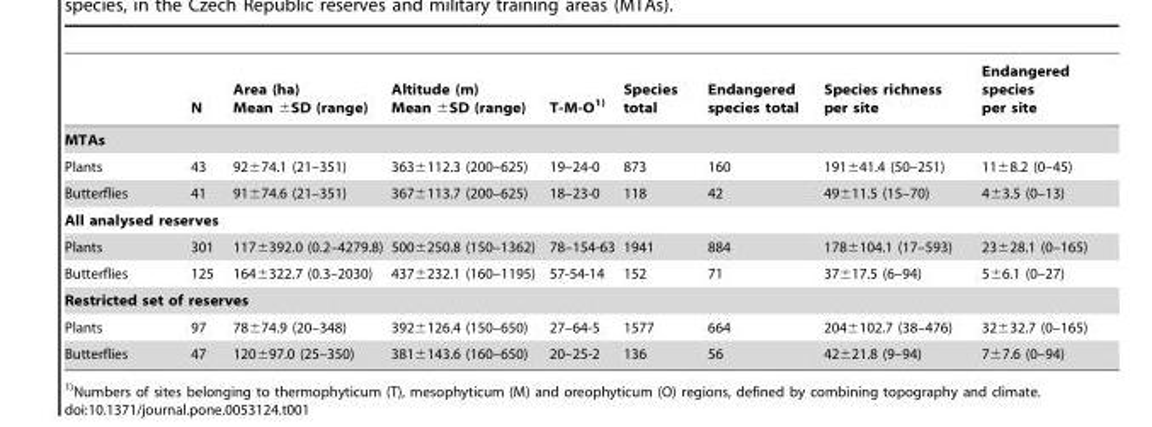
<table><thead><tr><td></td><td>N</td><td>Area (ha) Mean ±SD (range)</td><td>Altitude (m) Mean ±SD (range)</td><td>T-M-O1)</td><td>Species total</td><td>Endangered species total</td><td>Species richness per site</td><td>Endangered species per site</td></tr></thead><tbody><tr><td colspan="9">MTAs</td></tr><tr><td>Plants</td><td>43</td><td>92±74.1 (21–351)</td><td>363±112.3 (200–625)</td><td>19–24-0</td><td>873</td><td>160</td><td>191±41.4 (50–251)</td><td>11±8.2 (0–45)</td></tr><tr><td>Butterflies</td><td>41</td><td>91±74.6 (21–351)</td><td>367±113.7 (200–625)</td><td>18–23-0</td><td>118</td><td>42</td><td>49±11.5 (15–70)</td><td>4±3.5 (0–13)</td></tr><tr><td colspan="9">All analysed reserves</td></tr><tr><td>Plants</td><td>301</td><td>117±392.0 (0.2–4279.8)</td><td>500±250.8 (150–1362)</td><td>78–154-63</td><td>1941</td><td>884</td><td>178±104.1 (17–593)</td><td>23±28.1 (0–165)</td></tr><tr><td>Butterflies</td><td>125</td><td>164±322.7 (0.3–2030)</td><td>437±232.1 (160–1195)</td><td>57-54-14</td><td>152</td><td>71</td><td>37±17.5 (6–94)</td><td>5±6.1 (0–27)</td></tr><tr><td colspan="9">Restricted set of reserves</td></tr><tr><td>Plants</td><td>97</td><td>78±74.9 (20–348)</td><td>392±126.4 (150–650)</td><td>27–64-5</td><td>1577</td><td>664</td><td>204±102.7 (38–476)</td><td>32±32.7 (0–165)</td></tr><tr><td>Butterflies</td><td>47</td><td>120±97.0 (25–350)</td><td>381±143.6 (160–650)</td><td>20–25-2</td><td>136</td><td>56</td><td>42±21.8 (9–94)</td><td>7±7.6 (0–94)</td></tr></tbody></table>